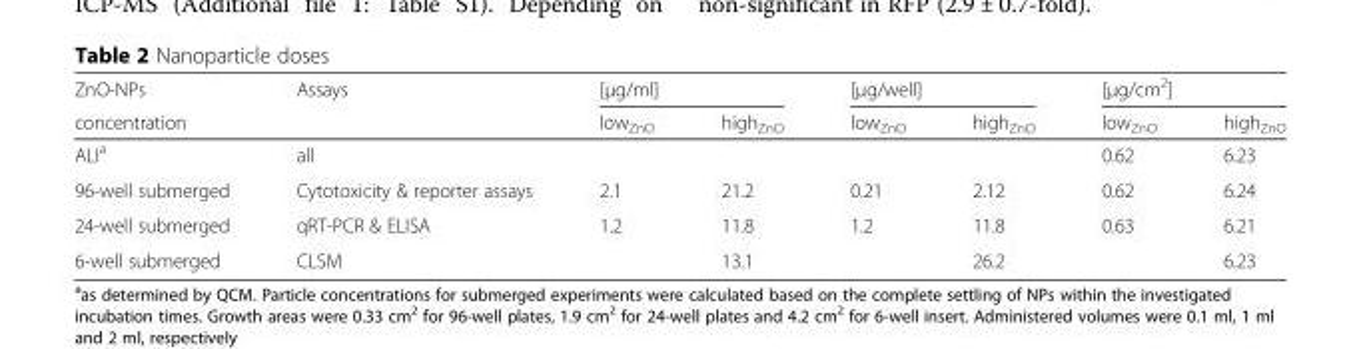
<table><thead><tr><td rowspan="2">ZnO-NPs concentration</td><td rowspan="2">Assays</td><td colspan="2">[μg/ml]</td><td colspan="2">[μg/well]</td><td colspan="2">[μg/cm<sup>2</sup>]</td></tr><tr><td>low<sub>ZnO</sub></td><td>high<sub>ZnO</sub></td><td>low<sub>ZnO</sub></td><td>high<sub>ZnO</sub></td><td>low<sub>ZnO</sub></td><td>high<sub>ZnO</sub></td></tr></thead><tbody><tr><td>ALI<sup>a</sup></td><td>all</td><td></td><td></td><td></td><td></td><td>0.62</td><td>6.23</td></tr><tr><td>96-well submerged</td><td>Cytotoxicity &amp; reporter assays</td><td>2.1</td><td>21.2</td><td>0.21</td><td>2.12</td><td>0.62</td><td>6.24</td></tr><tr><td>24-well submerged</td><td>qRT-PCR &amp; ELISA</td><td>1.2</td><td>11.8</td><td>1.2</td><td>11.8</td><td>0.63</td><td>6.21</td></tr><tr><td>6-well submerged</td><td>CLSM</td><td></td><td>13.1</td><td></td><td>26.2</td><td></td><td>6.23</td></tr></tbody></table>